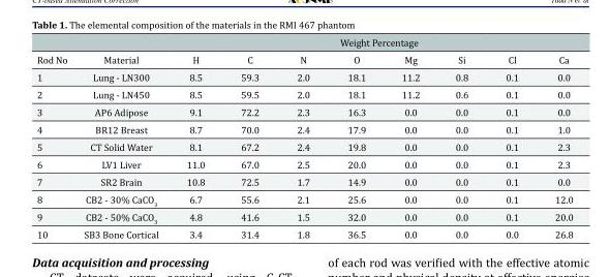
<table><thead><tr><td colspan="10">Weight Percentage</td></tr><tr><td>Rod No</td><td>Material</td><td>H</td><td>C</td><td>N</td><td>O</td><td>Mg</td><td>Si</td><td>Cl</td><td>Ca</td></tr></thead><tbody><tr><td>1</td><td>Lung - LN300</td><td>8.5</td><td>59.3</td><td>2.0</td><td>18.1</td><td>11.2</td><td>0.8</td><td>0.1</td><td>0.0</td></tr><tr><td>2</td><td>Lung - LN450</td><td>8.5</td><td>59.5</td><td>2.0</td><td>18.1</td><td>11.2</td><td>0.6</td><td>0.1</td><td>0.0</td></tr><tr><td>3</td><td>AP6 Adipose</td><td>9.1</td><td>72.2</td><td>2.3</td><td>16.3</td><td>0.0</td><td>0.0</td><td>0.1</td><td>0.0</td></tr><tr><td>4</td><td>BR12 Breast</td><td>8.7</td><td>70.0</td><td>2.4</td><td>17.9</td><td>0.0</td><td>0.0</td><td>0.1</td><td>1.0</td></tr><tr><td>5</td><td>CT Solid Water</td><td>8.1</td><td>67.2</td><td>2.4</td><td>19.8</td><td>0.0</td><td>0.0</td><td>0.1</td><td>2.3</td></tr><tr><td>6</td><td>LV1 Liver</td><td>11.0</td><td>67.0</td><td>2.5</td><td>20.0</td><td>0.0</td><td>0.0</td><td>0.1</td><td>2.3</td></tr><tr><td>7</td><td>SR2 Brain</td><td>10.8</td><td>72.5</td><td>1.7</td><td>14.9</td><td>0.0</td><td>0.0</td><td>0.1</td><td>0.0</td></tr><tr><td>8</td><td>CB2 - 30% CaCO<sub>3</sub></td><td>6.7</td><td>55.6</td><td>2.1</td><td>25.6</td><td>0.0</td><td>0.0</td><td>0.1</td><td>12.0</td></tr><tr><td>9</td><td>CB2 - 50% CaCO<sub>3</sub></td><td>4.8</td><td>41.6</td><td>1.5</td><td>32.0</td><td>0.0</td><td>0.0</td><td>0.1</td><td>20.0</td></tr><tr><td>10</td><td>SB3 Bone Cortical</td><td>3.4</td><td>31.4</td><td>1.8</td><td>36.5</td><td>0.0</td><td>0.0</td><td>0.0</td><td>26.8</td></tr></tbody></table>